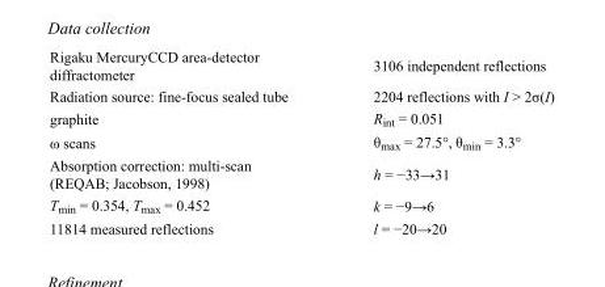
<table><tbody><tr><td>Rigaku MercuryCCD area-detector diffractometer</td><td>3106 independent reflections</td></tr><tr><td>Radiation source: fine-focus sealed tube</td><td>2204 reflections with I &gt; 2σ(I)</td></tr><tr><td>graphite</td><td>R<sub>int</sub> = 0.051</td></tr><tr><td>ω scans</td><td>θ<sub>max</sub> = 27.5°, θ<sub>min</sub> = 3.3°</td></tr><tr><td>Absorption correction: multi-scan (REQAB; Jacobson, 1998)</td><td>h = −33→31</td></tr><tr><td>T<sub>min</sub> = 0.354, T<sub>max</sub> = 0.452</td><td>k = −9→6</td></tr><tr><td>11814 measured reflections</td><td>l = −20→20</td></tr></tbody></table>